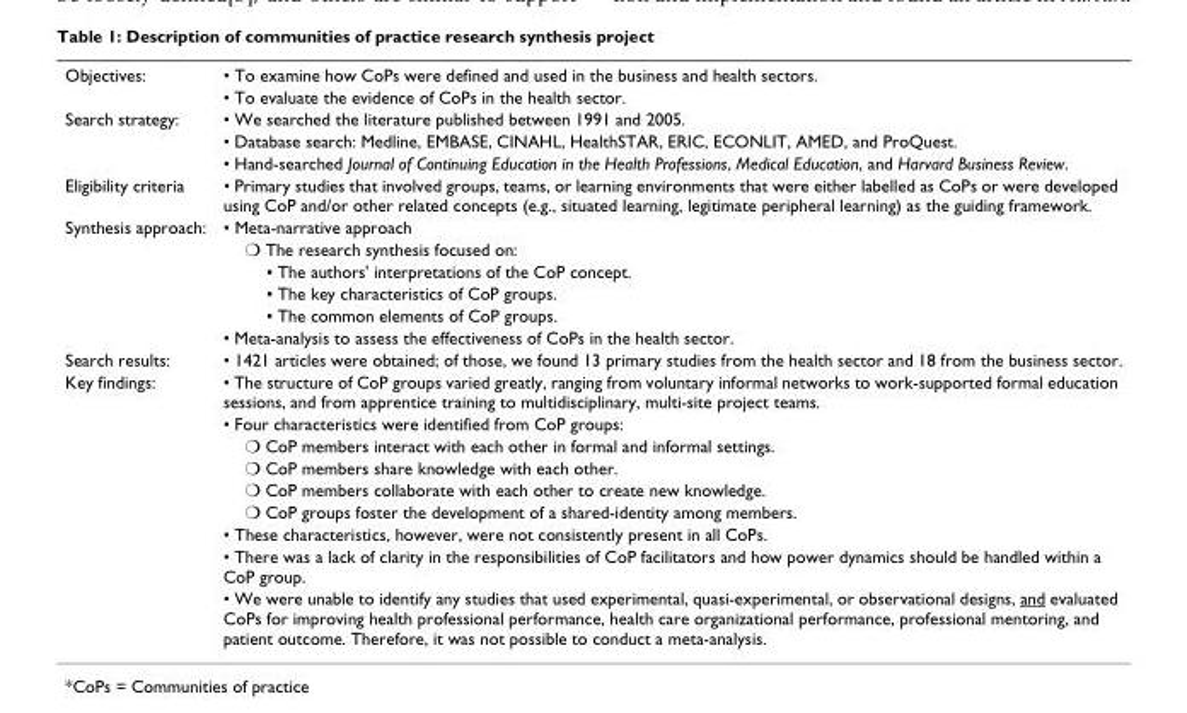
<table><tbody><tr><td rowspan="2">Objectives:</td><td>• To examine how CoPs were defined and used in the business and health sectors.</td></tr><tr><td>• To evaluate the evidence of CoPs in the health sector.</td></tr><tr><td rowspan="3">Search strategy:</td><td>• We searched the literature published between 1991 and 2005.</td></tr><tr><td>• Database search: Medline, EMBASE, CINAHL, HealthSTAR, ERIC, ECONLIT, AMED, and ProQuest.</td></tr><tr><td>• Hand-searched Journal of Continuing Education in the Health Professions, Medical Education, and Harvard Business Review.</td></tr><tr><td>Eligibility criteria</td><td>• Primary studies that involved groups, teams, or learning environments that were either labelled as CoPs or were developed using CoP and/or other related concepts (e.g., situated learning, legitimate peripheral learning) as the guiding framework.</td></tr><tr><td rowspan="6">Synthesis approach:</td><td>• Meta-narrative approach</td></tr><tr><td>❍ The research synthesis focused on:</td></tr><tr><td>▪ The authors&#x27; interpretations of the CoP concept.</td></tr><tr><td>▪ The key characteristics of CoP groups.</td></tr><tr><td>▪ The common elements of CoP groups.</td></tr><tr><td>• Meta-analysis to assess the effectiveness of CoPs in the health sector.</td></tr><tr><td>Search results:</td><td>• 1421 articles were obtained; of those, we found 13 primary studies from the health sector and 18 from the business sector.</td></tr><tr><td rowspan="9">Key findings:</td><td>• The structure of CoP groups varied greatly, ranging from voluntary informal networks to work-supported formal education sessions, and from apprentice training to multidisciplinary, multi-site project teams.</td></tr><tr><td>• Four characteristics were identified from CoP groups:</td></tr><tr><td>❍ CoP members interact with each other in formal and informal settings.</td></tr><tr><td>❍ CoP members share knowledge with each other.</td></tr><tr><td>❍ CoP members collaborate with each other to create new knowledge.</td></tr><tr><td>❍ CoP groups foster the development of a shared-identity among members.</td></tr><tr><td>• These characteristics, however, were not consistently present in all CoPs.</td></tr><tr><td>• There was a lack of clarity in the responsibilities of CoP facilitators and how power dynamics should be handled within a CoP group.</td></tr><tr><td>• We were unable to identify any studies that used experimental, quasi-experimental, or observational designs, and evaluated CoPs for improving health professional performance, health care organizational performance, professional mentoring, and patient outcome. Therefore, it was not possible to conduct a meta-analysis.</td></tr></tbody></table>